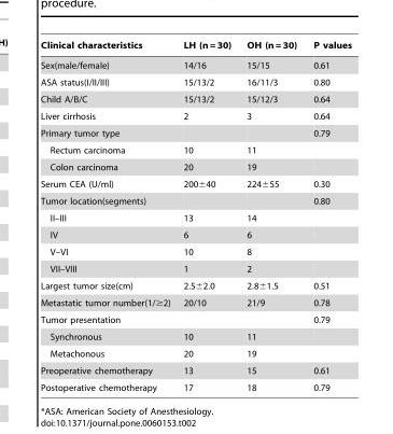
<table><thead><tr><td>Clinical characteristics</td><td>LH (n = 30)</td><td>OH (n = 30)</td><td>P values</td></tr></thead><tbody><tr><td>Sex(male/female)</td><td>14/16</td><td>15/15</td><td>0.61</td></tr><tr><td>ASA status(I/II/III)</td><td>15/13/2</td><td>16/11/3</td><td>0.80</td></tr><tr><td>Child A/B/C</td><td>15/13/2</td><td>15/12/3</td><td>0.64</td></tr><tr><td>Liver cirrhosis</td><td>2</td><td>3</td><td>0.64</td></tr><tr><td>Primary tumor type</td><td></td><td></td><td>0.79</td></tr><tr><td>Rectum carcinoma</td><td>10</td><td>11</td><td></td></tr><tr><td>Colon carcinoma</td><td>20</td><td>19</td><td></td></tr><tr><td>Serum CEA (U/ml)</td><td>200±40</td><td>224±55</td><td>0.30</td></tr><tr><td>Tumor location(segments)</td><td></td><td></td><td>0.80</td></tr><tr><td>II–III</td><td>13</td><td>14</td><td></td></tr><tr><td>IV</td><td>6</td><td>6</td><td></td></tr><tr><td>V–VI</td><td>10</td><td>8</td><td></td></tr><tr><td>VII–VIII</td><td>1</td><td>2</td><td></td></tr><tr><td>Largest tumor size(cm)</td><td>2.5±2.0</td><td>2.8±1.5</td><td>0.51</td></tr><tr><td>Metastatic tumor number(1/≥2)</td><td>20/10</td><td>21/9</td><td>0.78</td></tr><tr><td>Tumor presentation</td><td></td><td></td><td>0.79</td></tr><tr><td>Synchronous</td><td>10</td><td>11</td><td></td></tr><tr><td>Metachonous</td><td>20</td><td>19</td><td></td></tr><tr><td>Preoperative chemotherapy</td><td>13</td><td>15</td><td>0.61</td></tr><tr><td>Postoperative chemotherapy</td><td>17</td><td>18</td><td>0.79</td></tr></tbody></table>